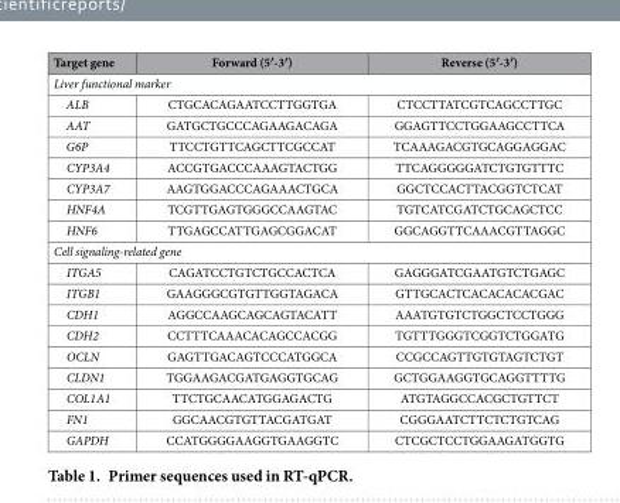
<table><thead><tr><td>Target gene</td><td>Forward (5′-3′)</td><td>Reverse (5′-3′)</td></tr></thead><tbody><tr><td colspan="3">Liver functional marker</td></tr><tr><td>ALB</td><td>CTGCACAGAATCCTTGGTGA</td><td>CTCCTTATCGTCAGCCTTGC</td></tr><tr><td>AAT</td><td>GATGCTGCCCAGAAGACAGA</td><td>GGAGTTCCTGGAAGCCTTCA</td></tr><tr><td>G6P</td><td>TTCCTGTTCAGCTTCGCCAT</td><td>TCAAAGACGTGCAGGAGGAC</td></tr><tr><td>CYP3A4</td><td>ACCGTGACCCAAAGTACTGG</td><td>TTCAGGGGGATCTGTGTTTC</td></tr><tr><td>CYP3A7</td><td>AAGTGGACCCAGAAACTGCA</td><td>GGCTCCACTTACGGTCTCAT</td></tr><tr><td>HNF4A</td><td>TCGTTGAGTGGGCCAAGTAC</td><td>TGTCATCGATCTGCAGCTCC</td></tr><tr><td>HNF6</td><td>TTGAGCCATTGAGCGGACAT</td><td>GGCAGGTTCAAACGTTAGGC</td></tr><tr><td colspan="3">Cell signaling-related gene</td></tr><tr><td>ITGA5</td><td>CAGATCCTGTCTGCCACTCA</td><td>GAGGGATCGAATGTCTGAGC</td></tr><tr><td>ITGB1</td><td>GAAGGGCGTGTTGGTAGACA</td><td>GTTGCACTCACACACACGAC</td></tr><tr><td>CDH1</td><td>AGGCCAAGCAGCAGTACATT</td><td>AAATGTGTCTGGCTCCTGGG</td></tr><tr><td>CDH2</td><td>CCTTTCAAACACAGCCACGG</td><td>TGTTTGGGTCGGTCTGGATG</td></tr><tr><td>OCLN</td><td>GAGTTGACAGTCCCATGGCA</td><td>CCGCCAGTTGTGTAGTCTGT</td></tr><tr><td>CLDN1</td><td>TGGAAGACGATGAGGTGCAG</td><td>GCTGGAAGGTGCAGGTTTTG</td></tr><tr><td>COL1A1</td><td>TTCTGCAACATGGAGACTG</td><td>ATGTAGGCCACGCTGTTCT</td></tr><tr><td>FN1</td><td>GGCAACGTGTTACGATGAT</td><td>CGGGAATCTTCTCTGTCAG</td></tr><tr><td>GAPDH</td><td>CCATGGGGAAGGTGAAGGTC</td><td>CTCGCTCCTGGAAGATGGTG</td></tr></tbody></table>